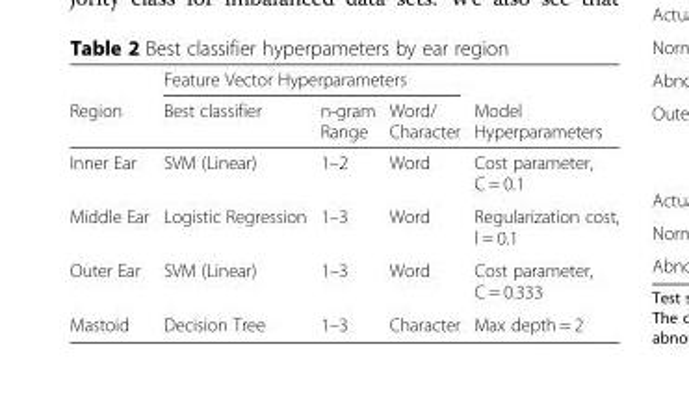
<table><thead><tr><td rowspan="2">Region</td><td colspan="3">Feature Vector Hyperparameters</td><td rowspan="2">Model Hyperparameters</td></tr><tr><td>Best classifier</td><td>n-gram Range</td><td>Word/ Character</td></tr></thead><tbody><tr><td>Inner Ear</td><td>SVM (Linear)</td><td>1–2</td><td>Word</td><td>Cost parameter, C = 0.1</td></tr><tr><td>Middle Ear</td><td>Logistic Regression</td><td>1–3</td><td>Word</td><td>Regularization cost, l = 0.1</td></tr><tr><td>Outer Ear</td><td>SVM (Linear)</td><td>1–3</td><td>Word</td><td>Cost parameter, C = 0.333</td></tr><tr><td>Mastoid</td><td>Decision Tree</td><td>1–3</td><td>Character</td><td>Max depth = 2</td></tr></tbody></table>